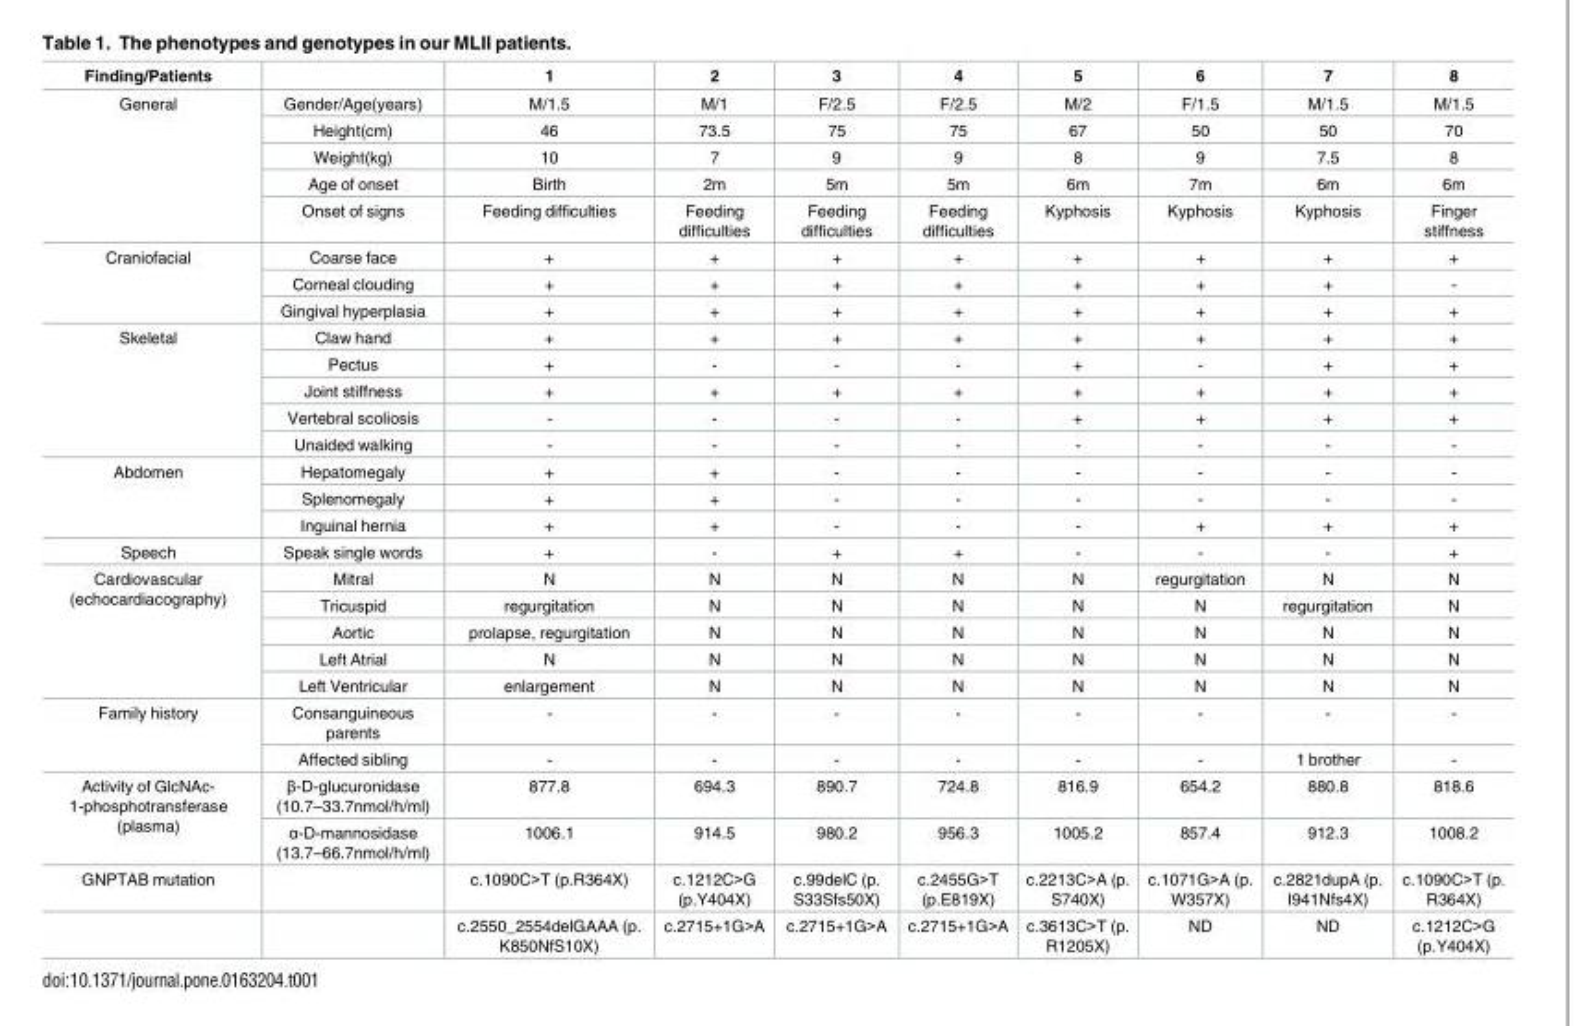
<table><thead><tr><td>Finding/Patients</td><td></td><td>1</td><td>2</td><td>3</td><td>4</td><td>5</td><td>6</td><td>7</td><td>8</td></tr></thead><tbody><tr><td rowspan="5">General</td><td>Gender/Age(years)</td><td>M/1.5</td><td>M/1</td><td>F/2.5</td><td>F/2.5</td><td>M/2</td><td>F/1.5</td><td>M/1.5</td><td>M/1.5</td></tr><tr><td>Height(cm)</td><td>46</td><td>73.5</td><td>75</td><td>75</td><td>67</td><td>50</td><td>50</td><td>70</td></tr><tr><td>Weight(kg)</td><td>10</td><td>7</td><td>9</td><td>9</td><td>8</td><td>9</td><td>7.5</td><td>8</td></tr><tr><td>Age of onset</td><td>Birth</td><td>2m</td><td>5m</td><td>5m</td><td>6m</td><td>7m</td><td>6m</td><td>6m</td></tr><tr><td>Onset of signs</td><td>Feeding difficulties</td><td>Feeding difficulties</td><td>Feeding difficulties</td><td>Feeding difficulties</td><td>Kyphosis</td><td>Kyphosis</td><td>Kyphosis</td><td>Finger stiffness</td></tr><tr><td rowspan="3">Craniofacial</td><td>Coarse face</td><td>+</td><td>+</td><td>+</td><td>+</td><td>+</td><td>+</td><td>+</td><td>+</td></tr><tr><td>Corneal clouding</td><td>+</td><td>+</td><td>+</td><td>+</td><td>+</td><td>+</td><td>+</td><td>-</td></tr><tr><td>Gingival hyperplasia</td><td>+</td><td>+</td><td>+</td><td>+</td><td>+</td><td>+</td><td>+</td><td>+</td></tr><tr><td rowspan="5">Skeletal</td><td>Claw hand</td><td>+</td><td>+</td><td>+</td><td>+</td><td>+</td><td>+</td><td>+</td><td>+</td></tr><tr><td>Pectus</td><td>+</td><td>-</td><td>-</td><td>-</td><td>+</td><td>-</td><td>+</td><td>+</td></tr><tr><td>Joint stiffness</td><td>+</td><td>+</td><td>+</td><td>+</td><td>+</td><td>+</td><td>+</td><td>+</td></tr><tr><td>Vertebral scoliosis</td><td>-</td><td>-</td><td>-</td><td>-</td><td>+</td><td>+</td><td>+</td><td>+</td></tr><tr><td>Unaided walking</td><td>-</td><td>-</td><td>-</td><td>-</td><td>-</td><td>-</td><td>-</td><td>-</td></tr><tr><td rowspan="3">Abdomen</td><td>Hepatomegaly</td><td>+</td><td>+</td><td>-</td><td>-</td><td>-</td><td>-</td><td>-</td><td>-</td></tr><tr><td>Splenomegaly</td><td>+</td><td>+</td><td>-</td><td>-</td><td>-</td><td>-</td><td>-</td><td>-</td></tr><tr><td>Inguinal hernia</td><td>+</td><td>+</td><td>-</td><td>-</td><td>-</td><td>+</td><td>+</td><td>+</td></tr><tr><td>Speech</td><td>Speak single words</td><td>+</td><td>-</td><td>+</td><td>+</td><td>-</td><td>-</td><td>-</td><td>+</td></tr><tr><td rowspan="5">Cardiovascular (echocardiacography)</td><td>Mitral</td><td>N</td><td>N</td><td>N</td><td>N</td><td>N</td><td>regurgitation</td><td>N</td><td>N</td></tr><tr><td>Tricuspid</td><td>regurgitation</td><td>N</td><td>N</td><td>N</td><td>N</td><td>N</td><td>regurgitation</td><td>N</td></tr><tr><td>Aortic</td><td>prolapse, regurgitation</td><td>N</td><td>N</td><td>N</td><td>N</td><td>N</td><td>N</td><td>N</td></tr><tr><td>Left Atrial</td><td>N</td><td>N</td><td>N</td><td>N</td><td>N</td><td>N</td><td>N</td><td>N</td></tr><tr><td>Left Ventricular</td><td>enlargement</td><td>N</td><td>N</td><td>N</td><td>N</td><td>N</td><td>N</td><td>N</td></tr><tr><td rowspan="2">Family history</td><td>Consanguineous parents</td><td>-</td><td>-</td><td>-</td><td>-</td><td>-</td><td>-</td><td>-</td><td>-</td></tr><tr><td>Affected sibling</td><td>-</td><td>-</td><td>-</td><td>-</td><td>-</td><td>-</td><td>1 brother</td><td>-</td></tr><tr><td rowspan="2">Activity of GlcNAc- 1-phosphotransferase (plasma)</td><td>β-D-glucuronidase (10.7–33.7nmol/h/ml)</td><td>877.8</td><td>694.3</td><td>890.7</td><td>724.8</td><td>816.9</td><td>654.2</td><td>880.8</td><td>818.6</td></tr><tr><td>α-D-mannosidase (13.7–66.7nmol/h/ml)</td><td>1006.1</td><td>914.5</td><td>980.2</td><td>956.3</td><td>1005.2</td><td>857.4</td><td>912.3</td><td>1008.2</td></tr><tr><td rowspan="2">GNPTAB mutation</td><td></td><td>c.1090C&gt;T (p.R364X)</td><td>c.1212C&gt;G (p.Y404X)</td><td>c.99delC (p. S33Sfs50X)</td><td>c.2455G&gt;T (p.E819X)</td><td>c.2213C&gt;A (p. S740X)</td><td>c.1071G&gt;A (p. W357X)</td><td>c.2821dupA (p. I941Nfs4X)</td><td>c.1090C&gt;T (p. R364X)</td></tr><tr><td></td><td>c.2550_2554delGAAA (p. K850NfS10X)</td><td>c.2715+1G&gt;A</td><td>c.2715+1G&gt;A</td><td>c.2715+1G&gt;A</td><td>c.3613C&gt;T (p. R1205X)</td><td>ND</td><td>ND</td><td>c.1212C&gt;G (p.Y404X)</td></tr></tbody></table>